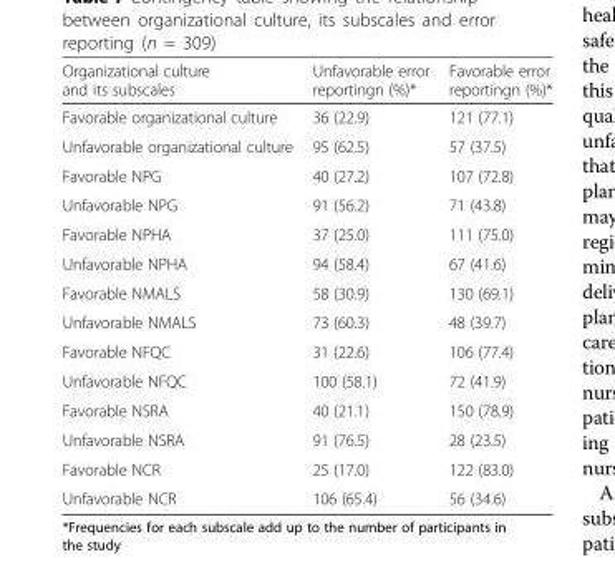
<table><thead><tr><td>Organizational culture and its subscales</td><td>Unfavorable error reportingn (%)*</td><td>Favorable error reportingn (%)*</td></tr></thead><tbody><tr><td>Favorable organizational culture</td><td>36 (22.9)</td><td>121 (77.1)</td></tr><tr><td>Unfavorable organizational culture</td><td>95 (62.5)</td><td>57 (37.5)</td></tr><tr><td>Favorable NPG</td><td>40 (27.2)</td><td>107 (72.8)</td></tr><tr><td>Unfavorable NPG</td><td>91 (56.2)</td><td>71 (43.8)</td></tr><tr><td>Favorable NPHA</td><td>37 (25.0)</td><td>111 (75.0)</td></tr><tr><td>Unfavorable NPHA</td><td>94 (58.4)</td><td>67 (41.6)</td></tr><tr><td>Favorable NMALS</td><td>58 (30.9)</td><td>130 (69.1)</td></tr><tr><td>Unfavorable NMALS</td><td>73 (60.3)</td><td>48 (39.7)</td></tr><tr><td>Favorable NFQC</td><td>31 (22.6)</td><td>106 (77.4)</td></tr><tr><td>Unfavorable NFQC</td><td>100 (58.1)</td><td>72 (41.9)</td></tr><tr><td>Favorable NSRA</td><td>40 (21.1)</td><td>150 (78.9)</td></tr><tr><td>Unfavorable NSRA</td><td>91 (76.5)</td><td>28 (23.5)</td></tr><tr><td>Favorable NCR</td><td>25 (17.0)</td><td>122 (83.0)</td></tr><tr><td>Unfavorable NCR</td><td>106 (65.4)</td><td>56 (34.6)</td></tr></tbody></table>